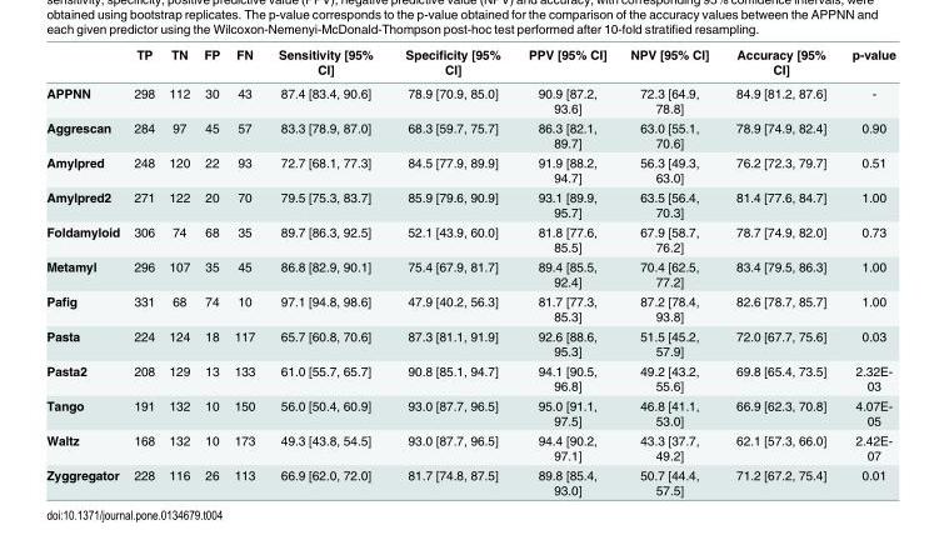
<table><thead><tr><td></td><td>TP</td><td>TN</td><td>FP</td><td>FN</td><td>Sensitivity [95% CI]</td><td>Specificity [95% CI]</td><td>PPV [95% CI]</td><td>NPV [95% CI]</td><td>Accuracy [95% CI]</td><td>p-value</td></tr></thead><tbody><tr><td>APPNN</td><td>298</td><td>112</td><td>30</td><td>43</td><td>87.4 [83.4, 90.6]</td><td>78.9 [70.9, 85.0]</td><td>90.9 [87.2, 93.6]</td><td>72.3 [64.9, 78.8]</td><td>84.9 [81.2, 87.6]</td><td>-</td></tr><tr><td>Aggrescan</td><td>284</td><td>97</td><td>45</td><td>57</td><td>83.3 [78.9, 87.0]</td><td>68.3 [59.7, 75.7]</td><td>86.3 [82.1, 89.7]</td><td>63.0 [55.1, 70.6]</td><td>78.9 [74.9, 82.4]</td><td>0.90</td></tr><tr><td>Amylpred</td><td>248</td><td>120</td><td>22</td><td>93</td><td>72.7 [68.1, 77.3]</td><td>84.5 [77.9, 89.9]</td><td>91.9 [88.2, 94.7]</td><td>56.3 [49.3, 63.0]</td><td>76.2 [72.3, 79.7]</td><td>0.51</td></tr><tr><td>Amylpred2</td><td>271</td><td>122</td><td>20</td><td>70</td><td>79.5 [75.3, 83.7]</td><td>85.9 [79.6, 90.9]</td><td>93.1 [89.9, 95.7]</td><td>63.5 [56.4, 70.3]</td><td>81.4 [77.6, 84.7]</td><td>1.00</td></tr><tr><td>Foldamyloid</td><td>306</td><td>74</td><td>68</td><td>35</td><td>89.7 [86.3, 92.5]</td><td>52.1 [43.9, 60.0]</td><td>81.8 [77.6, 85.5]</td><td>67.9 [58.7, 76.2]</td><td>78.7 [74.9, 82.0]</td><td>0.73</td></tr><tr><td>Metamyl</td><td>296</td><td>107</td><td>35</td><td>45</td><td>86.8 [82.9, 90.1]</td><td>75.4 [67.9, 81.7]</td><td>89.4 [85.5, 92.4]</td><td>70.4 [62.5, 77.2]</td><td>83.4 [79.5, 86.3]</td><td>1.00</td></tr><tr><td>Pafig</td><td>331</td><td>68</td><td>74</td><td>10</td><td>97.1 [94.8, 98.6]</td><td>47.9 [40.2, 56.3]</td><td>81.7 [77.3, 85.3]</td><td>87.2 [78.4, 93.8]</td><td>82.6 [78.7, 85.7]</td><td>1.00</td></tr><tr><td>Pasta</td><td>224</td><td>124</td><td>18</td><td>117</td><td>65.7 [60.8, 70.6]</td><td>87.3 [81.1, 91.9]</td><td>92.6 [88.6, 95.3]</td><td>51.5 [45.2, 57.9]</td><td>72.0 [67.7, 75.6]</td><td>0.03</td></tr><tr><td>Pasta2</td><td>208</td><td>129</td><td>13</td><td>133</td><td>61.0 [55.7, 65.7]</td><td>90.8 [85.1, 94.7]</td><td>94.1 [90.5, 96.8]</td><td>49.2 [43.2, 55.6]</td><td>69.8 [65.4, 73.5]</td><td>2.32E- 03</td></tr><tr><td>Tango</td><td>191</td><td>132</td><td>10</td><td>150</td><td>56.0 [50.4, 60.9]</td><td>93.0 [87.7, 96.5]</td><td>95.0 [91.1, 97.5]</td><td>46.8 [41.1, 53.0]</td><td>66.9 [62.3, 70.8]</td><td>4.07E- 05</td></tr><tr><td>Waltz</td><td>168</td><td>132</td><td>10</td><td>173</td><td>49.3 [43.8, 54.5]</td><td>93.0 [87.7, 96.5]</td><td>94.4 [90.2, 97.1]</td><td>43.3 [37.7, 49.2]</td><td>62.1 [57.3, 66.0]</td><td>2.42E- 07</td></tr><tr><td>Zyggregator</td><td>228</td><td>116</td><td>26</td><td>113</td><td>66.9 [62.0, 72.0]</td><td>81.7 [74.8, 87.5]</td><td>89.8 [85.4, 93.0]</td><td>50.7 [44.4, 57.5]</td><td>71.2 [67.2, 75.4]</td><td>0.01</td></tr></tbody></table>